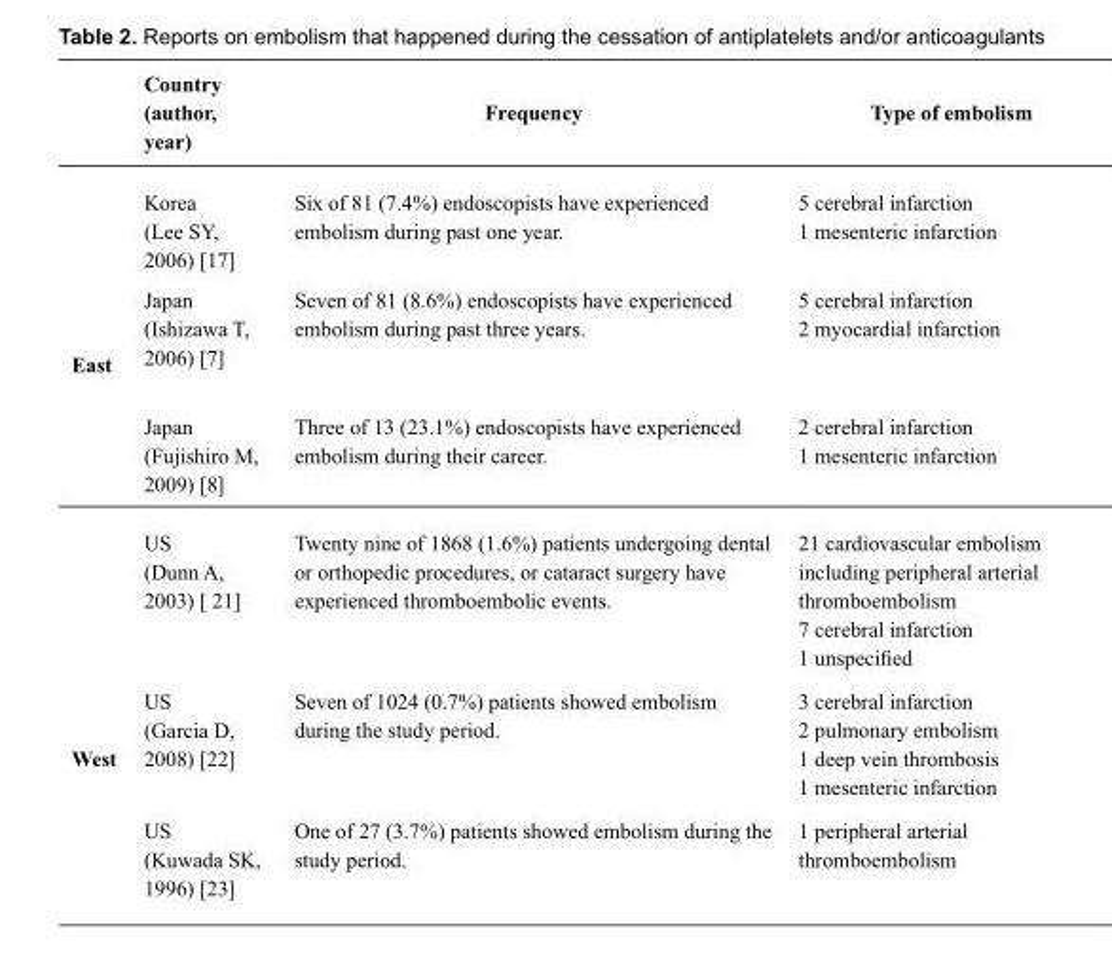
<table><thead><tr><td></td><td>Country (author, year)</td><td>Frequency</td><td>Type of embolism</td></tr></thead><tbody><tr><td rowspan="3">East</td><td>Korea (Lee SY, 2006) [17]</td><td>Six of 81 (7.4%) endoscopists have experienced embolism during past one year.</td><td>5 cerebral infarction 1 mesenteric infarction</td></tr><tr><td>Japan (Ishizawa T, 2006) [7]</td><td>Seven of 81 (8.6%) endoscopists have experienced embolism during past three years.</td><td>5 cerebral infarction 2 myocardial infarction</td></tr><tr><td>Japan (Fujishiro M, 2009) [8]</td><td>Three of 13 (23.1%) endoscopists have experienced embolism during their career.</td><td>2 cerebral infarction 1 mesenteric infarction</td></tr><tr><td rowspan="3">West</td><td>US (Dunn A, 2003) [ 21]</td><td>Twenty nine of 1868 (1.6%) patients undergoing dental or orthopedic procedures, or cataract surgery have experienced thromboembolic events.</td><td>21 cardiovascular embolism including peripheral arterial thromboembolism 7 cerebral infarction 1 unspecified</td></tr><tr><td>US (Garcia D, 2008) [22]</td><td>Seven of 1024 (0.7%) patients showed embolism during the study period.</td><td>3 cerebral infarction 2 pulmonary embolism 1 deep vein thrombosis 1 mesenteric infarction</td></tr><tr><td>US (Kuwada SK, 1996) [23]</td><td>One of 27 (3.7%) patients showed embolism during the study period.</td><td>1 peripheral arterial thromboembolism</td></tr></tbody></table>